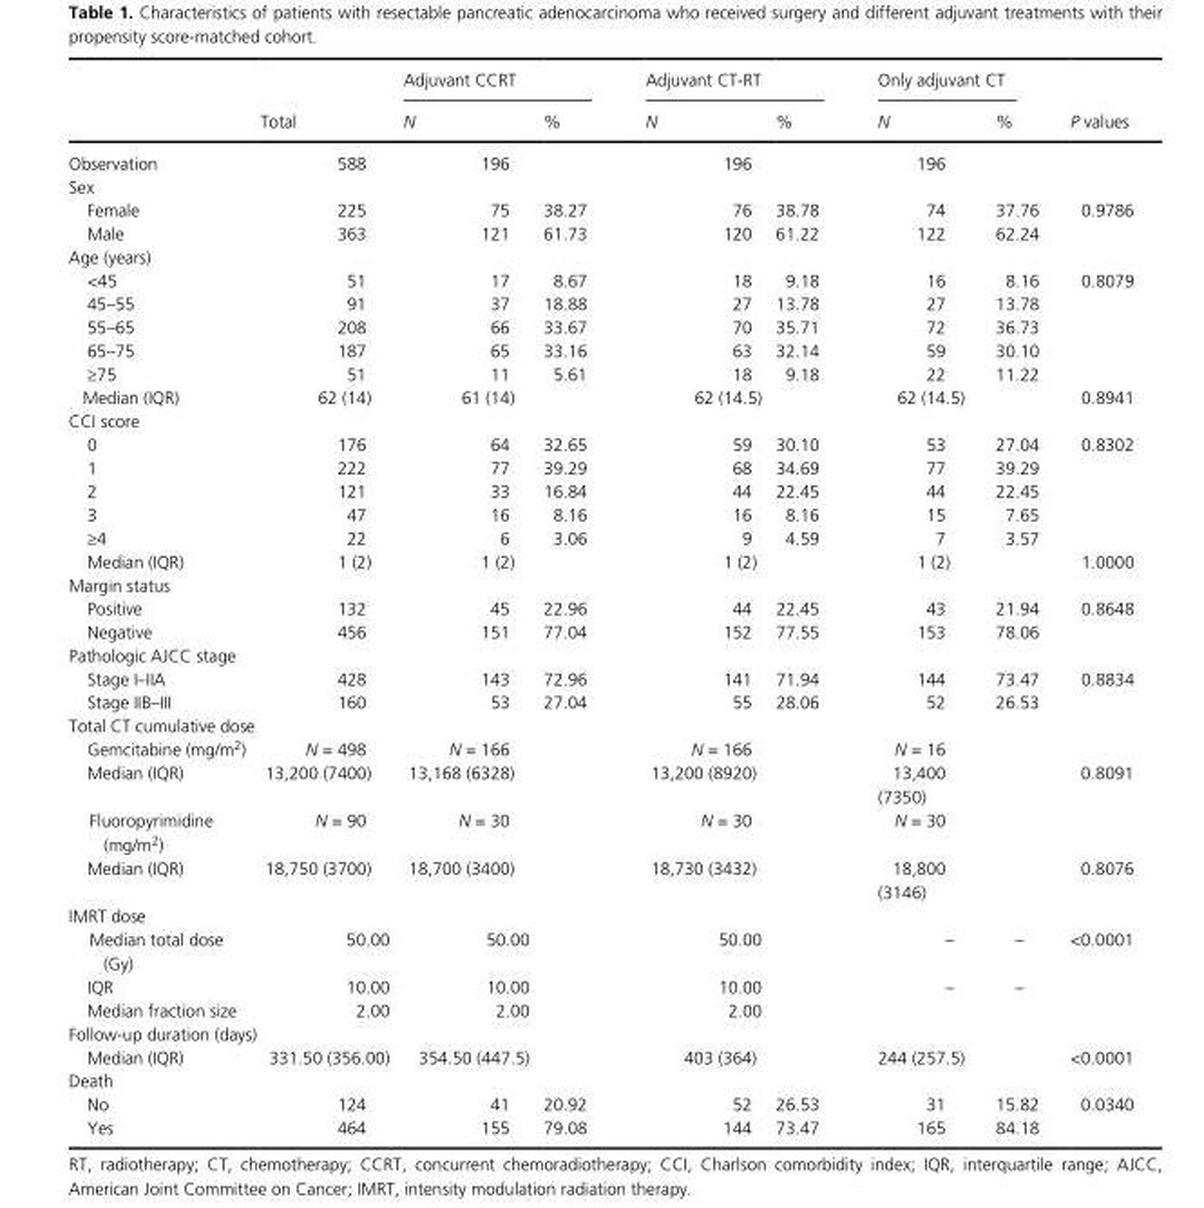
<table><thead><tr><td rowspan="2"></td><td rowspan="2">Total</td><td colspan="2">Adjuvant CCRT</td><td colspan="2">Adjuvant CT- RT</td><td colspan="2">Only adjuvant CT</td><td rowspan="2">P values</td></tr><tr><td>N</td><td>%</td><td>N</td><td>%</td><td>N</td><td>%</td></tr></thead><tbody><tr><td>Observation</td><td>588</td><td>196</td><td></td><td>196</td><td></td><td>196</td><td></td><td></td></tr><tr><td colspan="9">Sex</td></tr><tr><td>Female</td><td>225</td><td>75</td><td>38.27</td><td>76</td><td>38.78</td><td>74</td><td>37.76</td><td rowspan="2">0.9786</td></tr><tr><td>Male</td><td>363</td><td>121</td><td>61.73</td><td>120</td><td>61.22</td><td>122</td><td>62.24</td></tr><tr><td colspan="9">Age (years)</td></tr><tr><td>&lt;45</td><td>51</td><td>17</td><td>8.67</td><td>18</td><td>9.18</td><td>16</td><td>8.16</td><td rowspan="5">0.8079</td></tr><tr><td>45–55</td><td>91</td><td>37</td><td>18.88</td><td>27</td><td>13.78</td><td>27</td><td>13.78</td></tr><tr><td>55–65</td><td>208</td><td>66</td><td>33.67</td><td>70</td><td>35.71</td><td>72</td><td>36.73</td></tr><tr><td>65–75</td><td>187</td><td>65</td><td>33.16</td><td>63</td><td>32.14</td><td>59</td><td>30.10</td></tr><tr><td>≥75</td><td>51</td><td>11</td><td>5.61</td><td>18</td><td>9.18</td><td>22</td><td>11.22</td></tr><tr><td>Median (IQR)</td><td>62 (14)</td><td>61 (14)</td><td></td><td>62 (14.5)</td><td></td><td>62 (14.5)</td><td></td><td>0.8941</td></tr><tr><td colspan="9">CCI score</td></tr><tr><td>0</td><td>176</td><td>64</td><td>32.65</td><td>59</td><td>30.10</td><td>53</td><td>27.04</td><td rowspan="5">0.8302</td></tr><tr><td>1</td><td>222</td><td>77</td><td>39.29</td><td>68</td><td>34.69</td><td>77</td><td>39.29</td></tr><tr><td>2</td><td>121</td><td>33</td><td>16.84</td><td>44</td><td>22.45</td><td>44</td><td>22.45</td></tr><tr><td>3</td><td>47</td><td>16</td><td>8.16</td><td>16</td><td>8.16</td><td>15</td><td>7.65</td></tr><tr><td>≥4</td><td>22</td><td>6</td><td>3.06</td><td>9</td><td>4.59</td><td>7</td><td>3.57</td></tr><tr><td>Median (IQR)</td><td>1 (2)</td><td>1 (2)</td><td></td><td>1 (2)</td><td></td><td>1 (2)</td><td></td><td>1.0000</td></tr><tr><td colspan="9">Margin status</td></tr><tr><td>Positive</td><td>132</td><td>45</td><td>22.96</td><td>44</td><td>22.45</td><td>43</td><td>21.94</td><td rowspan="2">0.8648</td></tr><tr><td>Negative</td><td>456</td><td>151</td><td>77.04</td><td>152</td><td>77.55</td><td>153</td><td>78.06</td></tr><tr><td colspan="9">Pathologic AJCC stage</td></tr><tr><td>Stage I–IIA</td><td>428</td><td>143</td><td>72.96</td><td>141</td><td>71.94</td><td>144</td><td>73.47</td><td rowspan="2">0.8834</td></tr><tr><td>Stage IIB–III</td><td>160</td><td>53</td><td>27.04</td><td>55</td><td>28.06</td><td>52</td><td>26.53</td></tr><tr><td colspan="9">Total CT cumulative dose</td></tr><tr><td>Gemcitabine (mg/m<sup>2</sup>)</td><td>N = 498</td><td>N = 166</td><td></td><td>N = 166</td><td></td><td>N = 16</td><td></td><td></td></tr><tr><td>Median (IQR)</td><td>13,200 (7400)</td><td>13,168 (6328)</td><td></td><td>13,200 (8920)</td><td></td><td>13,400 (7350)</td><td></td><td>0.8091</td></tr><tr><td>Fluoropyrimidine (mg/m<sup>2</sup>)</td><td>N = 90</td><td>N = 30</td><td></td><td>N = 30</td><td></td><td>N = 30</td><td></td><td></td></tr><tr><td>Median (IQR)</td><td>18,750 (3700)</td><td>18,700 (3400)</td><td></td><td>18,730 (3432)</td><td></td><td>18,800 (3146)</td><td></td><td>0.8076</td></tr><tr><td colspan="9">IMRT dose</td></tr><tr><td>Median total dose (Gy)</td><td>50.00</td><td>50.00</td><td></td><td>50.00</td><td></td><td>–</td><td>–</td><td>&lt;0.0001</td></tr><tr><td>IQR</td><td>10.00</td><td>10.00</td><td></td><td>10.00</td><td></td><td>–</td><td>–</td><td></td></tr><tr><td>Median fraction size</td><td>2.00</td><td>2.00</td><td></td><td>2.00</td><td></td><td></td><td></td><td></td></tr><tr><td colspan="9">Follow- up duration (days)</td></tr><tr><td>Median (IQR)</td><td>331.50 (356.00)</td><td>354.50 (447.5)</td><td></td><td>403 (364)</td><td></td><td>244 (257.5)</td><td></td><td>&lt;0.0001</td></tr><tr><td colspan="9">Death</td></tr><tr><td>No</td><td>124</td><td>41</td><td>20.92</td><td>52</td><td>26.53</td><td>31</td><td>15.82</td><td rowspan="2">0.0340</td></tr><tr><td>Yes</td><td>464</td><td>155</td><td>79.08</td><td>144</td><td>73.47</td><td>165</td><td>84.18</td></tr></tbody></table>